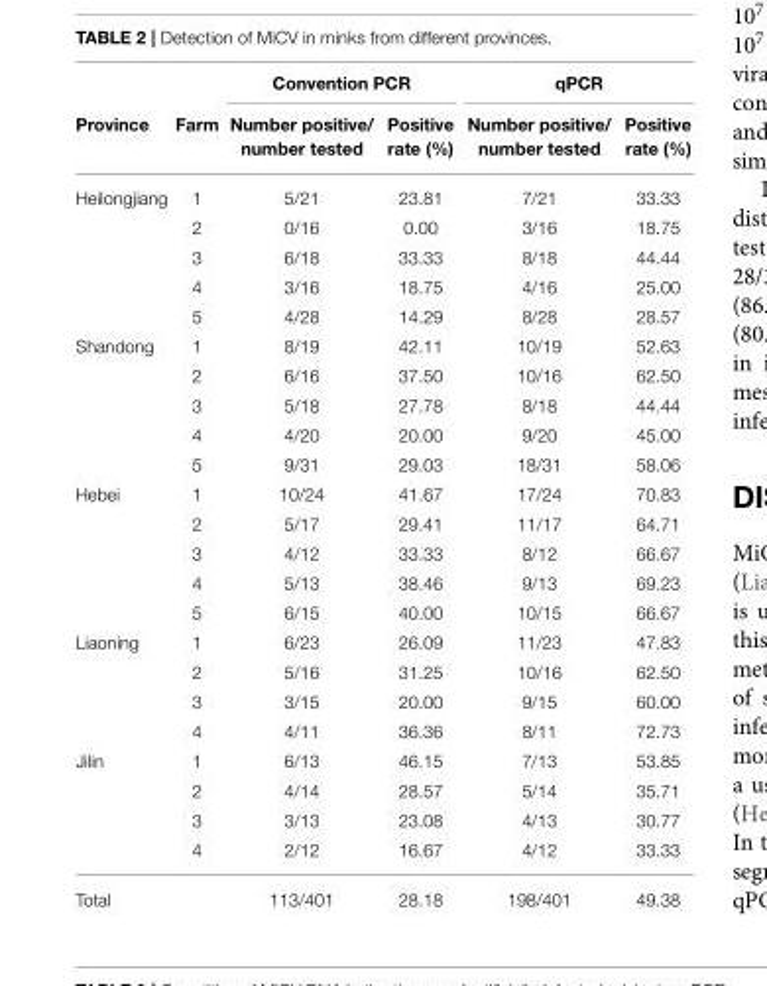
<table><thead><tr><td rowspan="2">Province</td><td rowspan="2">Farm</td><td colspan="2">Convention PCR</td><td colspan="2">qPCR</td></tr><tr><td>Number positive/ number tested</td><td>Positive rate (%)</td><td>Number positive/ number tested</td><td>Positive rate (%)</td></tr></thead><tbody><tr><td rowspan="5">Heilongjiang</td><td>1</td><td>5/21</td><td>23.81</td><td>7/21</td><td>33.33</td></tr><tr><td>2</td><td>0/16</td><td>0.00</td><td>3/16</td><td>18.75</td></tr><tr><td>3</td><td>6/18</td><td>33.33</td><td>8/18</td><td>44.44</td></tr><tr><td>4</td><td>3/16</td><td>18.75</td><td>4/16</td><td>25.00</td></tr><tr><td>5</td><td>4/28</td><td>14.29</td><td>8/28</td><td>28.57</td></tr><tr><td rowspan="5">Shandong</td><td>1</td><td>8/19</td><td>42.11</td><td>10/19</td><td>52.63</td></tr><tr><td>2</td><td>6/16</td><td>37.50</td><td>10/16</td><td>62.50</td></tr><tr><td>3</td><td>5/18</td><td>27.78</td><td>8/18</td><td>44.44</td></tr><tr><td>4</td><td>4/20</td><td>20.00</td><td>9/20</td><td>45.00</td></tr><tr><td>5</td><td>9/31</td><td>29.03</td><td>18/31</td><td>58.06</td></tr><tr><td rowspan="5">Hebei</td><td>1</td><td>10/24</td><td>41.67</td><td>17/24</td><td>70.83</td></tr><tr><td>2</td><td>5/17</td><td>29.41</td><td>11/17</td><td>64.71</td></tr><tr><td>3</td><td>4/12</td><td>33.33</td><td>8/12</td><td>66.67</td></tr><tr><td>4</td><td>5/13</td><td>38.46</td><td>9/13</td><td>69.23</td></tr><tr><td>5</td><td>6/15</td><td>40.00</td><td>10/15</td><td>66.67</td></tr><tr><td rowspan="4">Liaoning</td><td>1</td><td>6/23</td><td>26.09</td><td>11/23</td><td>47.83</td></tr><tr><td>2</td><td>5/16</td><td>31.25</td><td>10/16</td><td>62.50</td></tr><tr><td>3</td><td>3/15</td><td>20.00</td><td>9/15</td><td>60.00</td></tr><tr><td>4</td><td>4/11</td><td>36.36</td><td>8/11</td><td>72.73</td></tr><tr><td rowspan="4">Jilin</td><td>1</td><td>6/13</td><td>46.15</td><td>7/13</td><td>53.85</td></tr><tr><td>2</td><td>4/14</td><td>28.57</td><td>5/14</td><td>35.71</td></tr><tr><td>3</td><td>3/13</td><td>23.08</td><td>4/13</td><td>30.77</td></tr><tr><td>4</td><td>2/12</td><td>16.67</td><td>4/12</td><td>33.33</td></tr><tr><td>Total</td><td></td><td>113/401</td><td>28.18</td><td>198/401</td><td>49.38</td></tr></tbody></table>